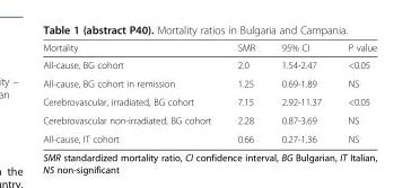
<table><thead><tr><td>Mortality</td><td>SMR</td><td>95% CI</td><td>P value</td></tr></thead><tbody><tr><td>All-cause, BG cohort</td><td>2.0</td><td>1.54-2.47</td><td>&lt;0.05</td></tr><tr><td>All-cause, BG cohort in remission</td><td>1.25</td><td>0.69-1.89</td><td>NS</td></tr><tr><td>Cerebrovascular, irradiated, BG cohort</td><td>7.15</td><td>2.92-11.37</td><td>&lt;0.05</td></tr><tr><td>Cerebrovascular non-irradiated, BG cohort</td><td>2.28</td><td>0.87-3.69</td><td>NS</td></tr><tr><td>All-cause, IT cohort</td><td>0.66</td><td>0.27-1.36</td><td>NS</td></tr></tbody></table>